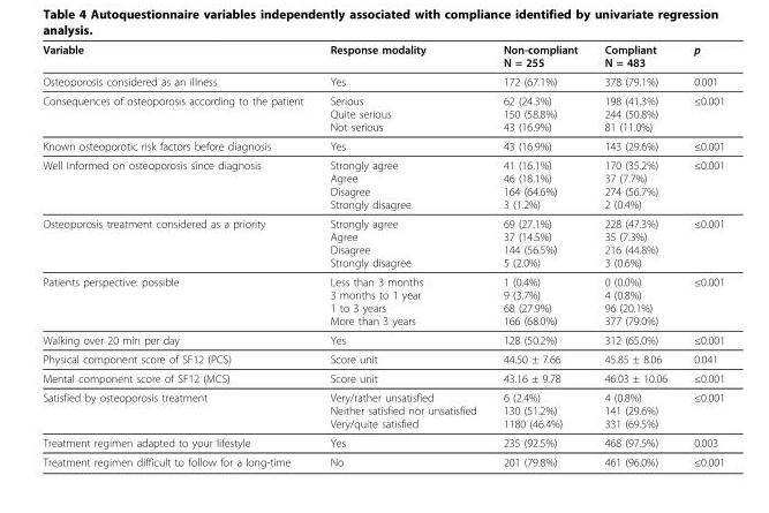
<table><thead><tr><td>Variable</td><td>Response modality</td><td>Non-compliant N = 255</td><td>Compliant N = 483</td><td>p</td></tr></thead><tbody><tr><td>Osteoporosis considered as an illness</td><td>Yes</td><td>172 (67.1%)</td><td>378 (79.1%)</td><td>0.001</td></tr><tr><td>Consequences of osteoporosis according to the patient</td><td>Serious Quite serious Not serious</td><td>62 (24.3%) 150 (58.8%) 43 (16.9%)</td><td>198 (41.3%) 244 (50.8%) 81 (11.0%)</td><td>≤0.001</td></tr><tr><td>Known osteoporotic risk factors before diagnosis</td><td>Yes</td><td>43 (16.9%)</td><td>143 (29.6%)</td><td>≤0.001</td></tr><tr><td>Well Informed on osteoporosis since diagnosis</td><td>Strongly agree Agree Disagree Strongly disagree</td><td>41 (16.1%) 46 (18.1%) 164 (64.6%) 3 (1.2%)</td><td>170 (35.2%) 37 (7.7%) 274 (56.7%) 2 (0.4%)</td><td>≤0.001</td></tr><tr><td>Osteoporosis treatment considered as a priority</td><td>Strongly agree Agree Disagree Strongly disagree</td><td>69 (27.1%) 37 (14.5%) 144 (56.5%) 5 (2.0%)</td><td>228 (47.3%) 35 (7.3%) 216 (44.8%) 3 (0.6%)</td><td>≤0.001</td></tr><tr><td>Patients perspective: possible</td><td>Less than 3 months 3 months to 1 year 1 to 3 years More than 3 years</td><td>1 (0.4%) 9 (3.7%) 68 (27.9%) 166 (68.0%)</td><td>0 (0.0%) 4 (0.8%) 96 (20.1%) 377 (79.0%)</td><td>≤0.001</td></tr><tr><td>Walking over 20 min per day</td><td>Yes</td><td>128 (50.2%)</td><td>312 (65.0%)</td><td>≤0.001</td></tr><tr><td>Physical component score of SF12 (PCS)</td><td>Score unit</td><td>44.50 ± 7.66</td><td>45.85 ± 8.06</td><td>0.041</td></tr><tr><td>Mental component score of SF12 (MCS)</td><td>Score unit</td><td>43.16 ± 9.78</td><td>46.03 ± 10.06</td><td>≤0.001</td></tr><tr><td>Satisfied by osteoporosis treatment</td><td>Very/rather unsatisfied Neither satisfied nor unsatisfied Very/quite satisfied</td><td>6 (2.4%) 130 (51.2%) 1180 (46.4%)</td><td>4 (0.8%) 141 (29.6%) 331 (69.5%)</td><td>≤0.001</td></tr><tr><td>Treatment regimen adapted to your lifestyle</td><td>Yes</td><td>235 (92.5%)</td><td>468 (97.5%)</td><td>0.003</td></tr><tr><td>Treatment regimen difficult to follow for a long-time</td><td>No</td><td>201 (79.8%)</td><td>461 (96.0%)</td><td>≤0.001</td></tr></tbody></table>